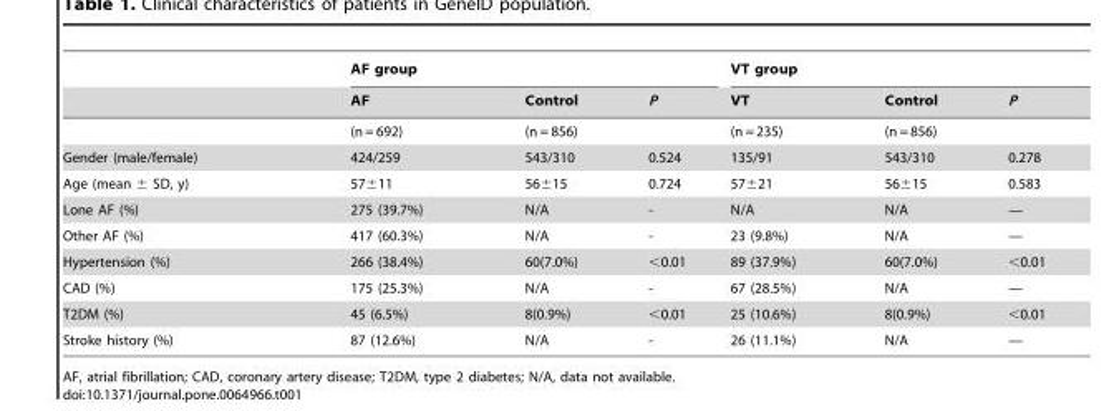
<table><thead><tr><td rowspan="2"></td><td colspan="3">AF group</td><td colspan="3">VT group</td></tr><tr><td>AF</td><td>Control</td><td>P</td><td>VT</td><td>Control</td><td>P</td></tr></thead><tbody><tr><td></td><td>(n = 692)</td><td>(n = 856)</td><td></td><td>(n = 235)</td><td>(n = 856)</td><td></td></tr><tr><td>Gender (male/female)</td><td>424/259</td><td>543/310</td><td>0.524</td><td>135/91</td><td>543/310</td><td>0.278</td></tr><tr><td>Age (mean ± SD, y)</td><td>57±11</td><td>56±15</td><td>0.724</td><td>57±21</td><td>56±15</td><td>0.583</td></tr><tr><td>Lone AF (%)</td><td>275 (39.7%)</td><td>N/A</td><td>-</td><td>N/A</td><td>N/A</td><td>—</td></tr><tr><td>Other AF (%)</td><td>417 (60.3%)</td><td>N/A</td><td>-</td><td>23 (9.8%)</td><td>N/A</td><td>—</td></tr><tr><td>Hypertension (%)</td><td>266 (38.4%)</td><td>60(7.0%)</td><td>&lt;0.01</td><td>89 (37.9%)</td><td>60(7.0%)</td><td>&lt;0.01</td></tr><tr><td>CAD (%)</td><td>175 (25.3%)</td><td>N/A</td><td>-</td><td>67 (28.5%)</td><td>N/A</td><td>—</td></tr><tr><td>T2DM (%)</td><td>45 (6.5%)</td><td>8(0.9%)</td><td>&lt;0.01</td><td>25 (10.6%)</td><td>8(0.9%)</td><td>&lt;0.01</td></tr><tr><td>Stroke history (%)</td><td>87 (12.6%)</td><td>N/A</td><td>-</td><td>26 (11.1%)</td><td>N/A</td><td>—</td></tr></tbody></table>